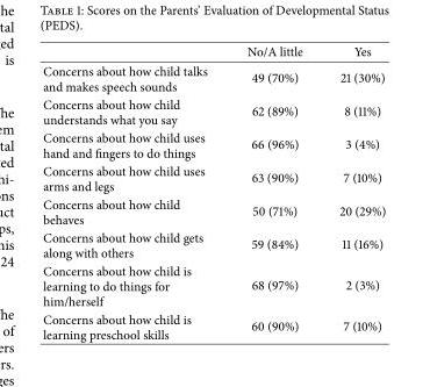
<table><thead><tr><td></td><td>No/A little</td><td>Yes</td></tr></thead><tbody><tr><td>Concerns about how child talks and makes speech sounds</td><td>49 (70%)</td><td>21 (30%)</td></tr><tr><td>Concerns about how child understands what you say</td><td>62 (89%)</td><td>8 (11%)</td></tr><tr><td>Concerns about how child uses hand and fingers to do things</td><td>66 (96%)</td><td>3 (4%)</td></tr><tr><td>Concerns about how child uses arms and legs</td><td>63 (90%)</td><td>7 (10%)</td></tr><tr><td>Concerns about how child behaves</td><td>50 (71%)</td><td>20 (29%)</td></tr><tr><td>Concerns about how child gets along with others</td><td>59 (84%)</td><td>11 (16%)</td></tr><tr><td>Concerns about how child is learning to do things for him/herself</td><td>68 (97%)</td><td>2 (3%)</td></tr><tr><td>Concerns about how child is learning preschool skills</td><td>60 (90%)</td><td>7 (10%)</td></tr></tbody></table>